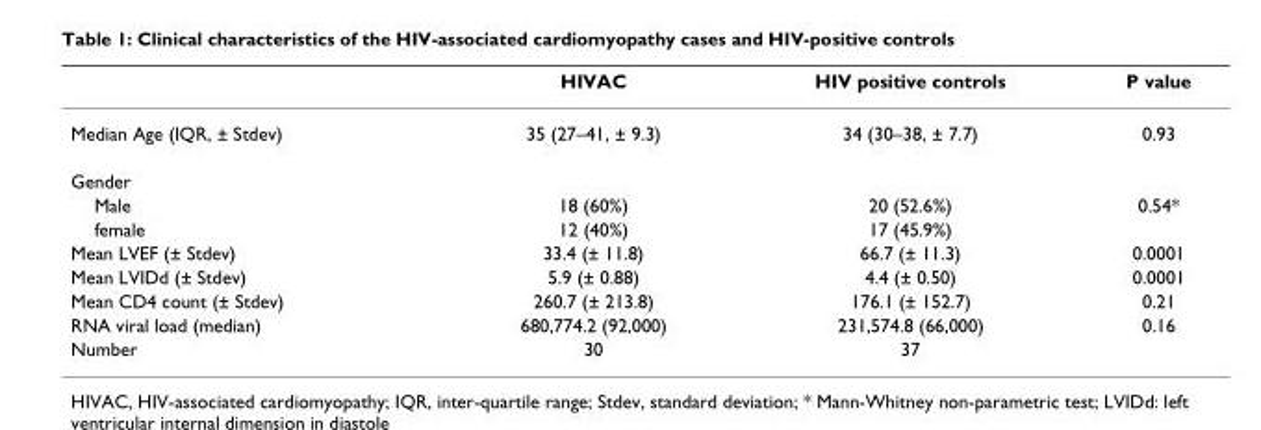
<table><thead><tr><td></td><td>HIVAC</td><td>HIV positive controls</td><td>P value</td></tr></thead><tbody><tr><td>Median Age (IQR, ± Stdev)</td><td>35 (27–41, ± 9.3)</td><td>34 (30–38, ± 7.7)</td><td>0.93</td></tr><tr><td colspan="4">Gender</td></tr><tr><td>Male</td><td>18 (60%)</td><td>20 (52.6%)</td><td>0.54*</td></tr><tr><td>female</td><td>12 (40%)</td><td>17 (45.9%)</td><td></td></tr><tr><td>Mean LVEF (± Stdev)</td><td>33.4 (± 11.8)</td><td>66.7 (± 11.3)</td><td>0.0001</td></tr><tr><td>Mean LVIDd (± Stdev)</td><td>5.9 (± 0.88)</td><td>4.4 (± 0.50)</td><td>0.0001</td></tr><tr><td>Mean CD4 count (± Stdev)</td><td>260.7 (± 213.8)</td><td>176.1 (± 152.7)</td><td>0.21</td></tr><tr><td>RNA viral load (median)</td><td>680,774.2 (92,000)</td><td>231,574.8 (66,000)</td><td>0.16</td></tr><tr><td>Number</td><td>30</td><td>37</td><td></td></tr></tbody></table>